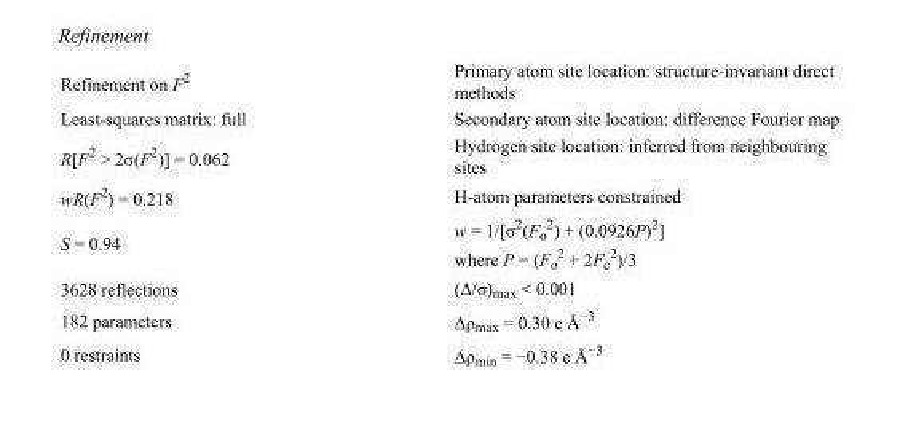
<table><tbody><tr><td>Refinement on F<sup>2</sup></td><td>Primary atom site location: structure-invariant direct methods</td></tr><tr><td>Least-squares matrix: full</td><td>Secondary atom site location: difference Fourier map</td></tr><tr><td>R[F<sup>2</sup> &gt; 2σ(F<sup>2</sup>)] = 0.062</td><td>Hydrogen site location: inferred from neighbouring sites</td></tr><tr><td>wR(F<sup>2</sup>) = 0.218</td><td>H-atom parameters constrained</td></tr><tr><td>S = 0.94</td><td>w = 1/[σ<sup>2</sup>(F<sub>o</sub> <sup>2</sup>) + (0.0926P)<sup>2</sup>] where P = (F<sub>o</sub> <sup>2</sup> + 2F<sub>c</sub> <sup>2</sup>)/3</td></tr><tr><td>3628 reflections</td><td>(Δ/σ)<sub>max</sub> &lt; 0.001</td></tr><tr><td>182 parameters</td><td>Δρ<sub>max</sub> = 0.30 e Å<sup>−3</sup></td></tr><tr><td>0 restraints</td><td>Δρ<sub>min</sub> = −0.38 e Å<sup>−3</sup></td></tr></tbody></table>